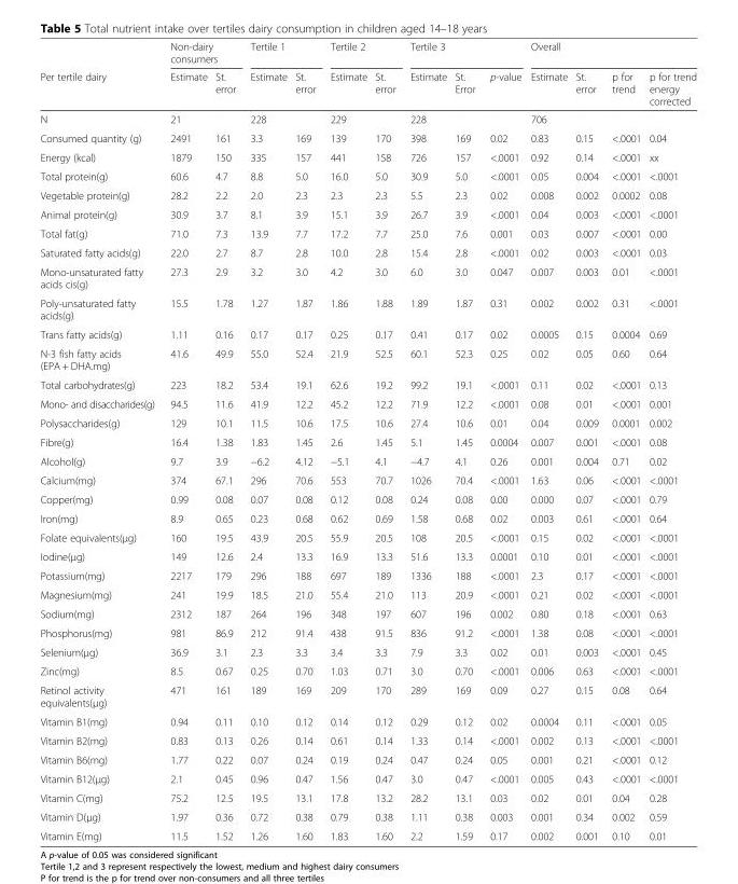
<table><thead><tr><td rowspan="2">Per tertile dairy</td><td colspan="2">Non-dairy consumers</td><td colspan="2">Tertile 1</td><td colspan="2">Tertile 2</td><td colspan="3">Tertile 3</td><td colspan="4">Overall</td></tr><tr><td>Estimate</td><td>St. error</td><td>Estimate</td><td>St. error</td><td>Estimate</td><td>St. error</td><td>Estimate</td><td>St. Error</td><td>p-value</td><td>Estimate</td><td>St. error</td><td>p for trend</td><td>p for trend energy corrected</td></tr></thead><tbody><tr><td>N</td><td>21</td><td></td><td>228</td><td></td><td>229</td><td></td><td>228</td><td></td><td></td><td>706</td><td></td><td></td><td></td></tr><tr><td>Consumed quantity (g)</td><td>2491</td><td>161</td><td>3.3</td><td>169</td><td>139</td><td>170</td><td>398</td><td>169</td><td>0.02</td><td>0.83</td><td>0.15</td><td>&lt;.0001</td><td>0.04</td></tr><tr><td>Energy (kcal)</td><td>1879</td><td>150</td><td>335</td><td>157</td><td>441</td><td>158</td><td>726</td><td>157</td><td>&lt;.0001</td><td>0.92</td><td>0.14</td><td>&lt;.0001</td><td>xx</td></tr><tr><td>Total protein(g)</td><td>60.6</td><td>4.7</td><td>8.8</td><td>5.0</td><td>16.0</td><td>5.0</td><td>30.9</td><td>5.0</td><td>&lt;.0001</td><td>0.05</td><td>0.004</td><td>&lt;.0001</td><td>&lt;.0001</td></tr><tr><td>Vegetable protein(g)</td><td>28.2</td><td>2.2</td><td>2.0</td><td>2.3</td><td>2.3</td><td>2.3</td><td>5.5</td><td>2.3</td><td>0.02</td><td>0.008</td><td>0.002</td><td>0.0002</td><td>0.08</td></tr><tr><td>Animal protein(g)</td><td>30.9</td><td>3.7</td><td>8.1</td><td>3.9</td><td>15.1</td><td>3.9</td><td>26.7</td><td>3.9</td><td>&lt;.0001</td><td>0.04</td><td>0.003</td><td>&lt;.0001</td><td>&lt;.0001</td></tr><tr><td>Total fat(g)</td><td>71.0</td><td>7.3</td><td>13.9</td><td>7.7</td><td>17.2</td><td>7.7</td><td>25.0</td><td>7.6</td><td>0.001</td><td>0.03</td><td>0.007</td><td>&lt;.0001</td><td>0.00</td></tr><tr><td>Saturated fatty acids(g)</td><td>22.0</td><td>2.7</td><td>8.7</td><td>2.8</td><td>10.0</td><td>2.8</td><td>15.4</td><td>2.8</td><td>&lt;.0001</td><td>0.02</td><td>0.003</td><td>&lt;.0001</td><td>0.03</td></tr><tr><td>Mono-unsaturated fatty acids cis(g)</td><td>27.3</td><td>2.9</td><td>3.2</td><td>3.0</td><td>4.2</td><td>3.0</td><td>6.0</td><td>3.0</td><td>0.047</td><td>0.007</td><td>0.003</td><td>0.01</td><td>&lt;.0001</td></tr><tr><td>Poly-unsaturated fatty acids(g)</td><td>15.5</td><td>1.78</td><td>1.27</td><td>1.87</td><td>1.86</td><td>1.88</td><td>1.89</td><td>1.87</td><td>0.31</td><td>0.002</td><td>0.002</td><td>0.31</td><td>&lt;.0001</td></tr><tr><td>Trans fatty acids(g)</td><td>1.11</td><td>0.16</td><td>0.17</td><td>0.17</td><td>0.25</td><td>0.17</td><td>0.41</td><td>0.17</td><td>0.02</td><td>0.0005</td><td>0.15</td><td>0.0004</td><td>0.69</td></tr><tr><td>N-3 fish fatty acids (EPA + DHA.mg)</td><td>41.6</td><td>49.9</td><td>55.0</td><td>52.4</td><td>21.9</td><td>52.5</td><td>60.1</td><td>52.3</td><td>0.25</td><td>0.02</td><td>0.05</td><td>0.60</td><td>0.64</td></tr><tr><td>Total carbohydrates(g)</td><td>223</td><td>18.2</td><td>53.4</td><td>19.1</td><td>62.6</td><td>19.2</td><td>99.2</td><td>19.1</td><td>&lt;.0001</td><td>0.11</td><td>0.02</td><td>&lt;.0001</td><td>0.13</td></tr><tr><td>Mono- and disaccharides(g)</td><td>94.5</td><td>11.6</td><td>41.9</td><td>12.2</td><td>45.2</td><td>12.2</td><td>71.9</td><td>12.2</td><td>&lt;.0001</td><td>0.08</td><td>0.01</td><td>&lt;.0001</td><td>0.001</td></tr><tr><td>Polysaccharides(g)</td><td>129</td><td>10.1</td><td>11.5</td><td>10.6</td><td>17.5</td><td>10.6</td><td>27.4</td><td>10.6</td><td>0.01</td><td>0.04</td><td>0.009</td><td>0.0001</td><td>0.002</td></tr><tr><td>Fibre(g)</td><td>16.4</td><td>1.38</td><td>1.83</td><td>1.45</td><td>2.6</td><td>1.45</td><td>5.1</td><td>1.45</td><td>0.0004</td><td>0.007</td><td>0.001</td><td>&lt;.0001</td><td>0.08</td></tr><tr><td>Alcohol(g)</td><td>9.7</td><td>3.9</td><td>−6.2</td><td>4.12</td><td>−5.1</td><td>4.1</td><td>−4.7</td><td>4.1</td><td>0.26</td><td>0.001</td><td>0.004</td><td>0.71</td><td>0.02</td></tr><tr><td>Calcium(mg)</td><td>374</td><td>67.1</td><td>296</td><td>70.6</td><td>553</td><td>70.7</td><td>1026</td><td>70.4</td><td>&lt;.0001</td><td>1.63</td><td>0.06</td><td>&lt;.0001</td><td>&lt;.0001</td></tr><tr><td>Copper(mg)</td><td>0.99</td><td>0.08</td><td>0.07</td><td>0.08</td><td>0.12</td><td>0.08</td><td>0.24</td><td>0.08</td><td>0.00</td><td>0.000</td><td>0.07</td><td>&lt;.0001</td><td>0.79</td></tr><tr><td>Iron(mg)</td><td>8.9</td><td>0.65</td><td>0.23</td><td>0.68</td><td>0.62</td><td>0.69</td><td>1.58</td><td>0.68</td><td>0.02</td><td>0.003</td><td>0.61</td><td>&lt;.0001</td><td>0.64</td></tr><tr><td>Folate equivalents(μg)</td><td>160</td><td>19.5</td><td>43.9</td><td>20.5</td><td>55.9</td><td>20.5</td><td>108</td><td>20.5</td><td>&lt;.0001</td><td>0.15</td><td>0.02</td><td>&lt;.0001</td><td>&lt;.0001</td></tr><tr><td>Iodine(μg)</td><td>149</td><td>12.6</td><td>2.4</td><td>13.3</td><td>16.9</td><td>13.3</td><td>51.6</td><td>13.3</td><td>0.0001</td><td>0.10</td><td>0.01</td><td>&lt;.0001</td><td>&lt;.0001</td></tr><tr><td>Potassium(mg)</td><td>2217</td><td>179</td><td>296</td><td>188</td><td>697</td><td>189</td><td>1336</td><td>188</td><td>&lt;.0001</td><td>2.3</td><td>0.17</td><td>&lt;.0001</td><td>&lt;.0001</td></tr><tr><td>Magnesium(mg)</td><td>241</td><td>19.9</td><td>18.5</td><td>21.0</td><td>55.4</td><td>21.0</td><td>113</td><td>20.9</td><td>&lt;.0001</td><td>0.21</td><td>0.02</td><td>&lt;.0001</td><td>&lt;.0001</td></tr><tr><td>Sodium(mg)</td><td>2312</td><td>187</td><td>264</td><td>196</td><td>348</td><td>197</td><td>607</td><td>196</td><td>0.002</td><td>0.80</td><td>0.18</td><td>&lt;.0001</td><td>0.63</td></tr><tr><td>Phosphorus(mg)</td><td>981</td><td>86.9</td><td>212</td><td>91.4</td><td>438</td><td>91.5</td><td>836</td><td>91.2</td><td>&lt;.0001</td><td>1.38</td><td>0.08</td><td>&lt;.0001</td><td>&lt;.0001</td></tr><tr><td>Selenium(μg)</td><td>36.9</td><td>3.1</td><td>2.3</td><td>3.3</td><td>3.4</td><td>3.3</td><td>7.9</td><td>3.3</td><td>0.02</td><td>0.01</td><td>0.003</td><td>&lt;.0001</td><td>0.45</td></tr><tr><td>Zinc(mg)</td><td>8.5</td><td>0.67</td><td>0.25</td><td>0.70</td><td>1.03</td><td>0.71</td><td>3.0</td><td>0.70</td><td>&lt;.0001</td><td>0.006</td><td>0.63</td><td>&lt;.0001</td><td>&lt;.0001</td></tr><tr><td>Retinol activity equivalents(μg)</td><td>471</td><td>161</td><td>189</td><td>169</td><td>209</td><td>170</td><td>289</td><td>169</td><td>0.09</td><td>0.27</td><td>0.15</td><td>0.08</td><td>0.64</td></tr><tr><td>Vitamin B1(mg)</td><td>0.94</td><td>0.11</td><td>0.10</td><td>0.12</td><td>0.14</td><td>0.12</td><td>0.29</td><td>0.12</td><td>0.02</td><td>0.0004</td><td>0.11</td><td>&lt;.0001</td><td>0.05</td></tr><tr><td>Vitamin B2(mg)</td><td>0.83</td><td>0.13</td><td>0.26</td><td>0.14</td><td>0.61</td><td>0.14</td><td>1.33</td><td>0.14</td><td>&lt;.0001</td><td>0.002</td><td>0.13</td><td>&lt;.0001</td><td>&lt;.0001</td></tr><tr><td>Vitamin B6(mg)</td><td>1.77</td><td>0.22</td><td>0.07</td><td>0.24</td><td>0.19</td><td>0.24</td><td>0.47</td><td>0.24</td><td>0.05</td><td>0.001</td><td>0.21</td><td>&lt;.0001</td><td>0.12</td></tr><tr><td>Vitamin B12(μg)</td><td>2.1</td><td>0.45</td><td>0.96</td><td>0.47</td><td>1.56</td><td>0.47</td><td>3.0</td><td>0.47</td><td>&lt;.0001</td><td>0.005</td><td>0.43</td><td>&lt;.0001</td><td>&lt;.0001</td></tr><tr><td>Vitamin C(mg)</td><td>75.2</td><td>12.5</td><td>19.5</td><td>13.1</td><td>17.8</td><td>13.2</td><td>28.2</td><td>13.1</td><td>0.03</td><td>0.02</td><td>0.01</td><td>0.04</td><td>0.28</td></tr><tr><td>Vitamin D(μg)</td><td>1.97</td><td>0.36</td><td>0.72</td><td>0.38</td><td>0.79</td><td>0.38</td><td>1.11</td><td>0.38</td><td>0.003</td><td>0.001</td><td>0.34</td><td>0.002</td><td>0.59</td></tr><tr><td>Vitamin E(mg)</td><td>11.5</td><td>1.52</td><td>1.26</td><td>1.60</td><td>1.83</td><td>1.60</td><td>2.2</td><td>1.59</td><td>0.17</td><td>0.002</td><td>0.001</td><td>0.10</td><td>0.01</td></tr></tbody></table>